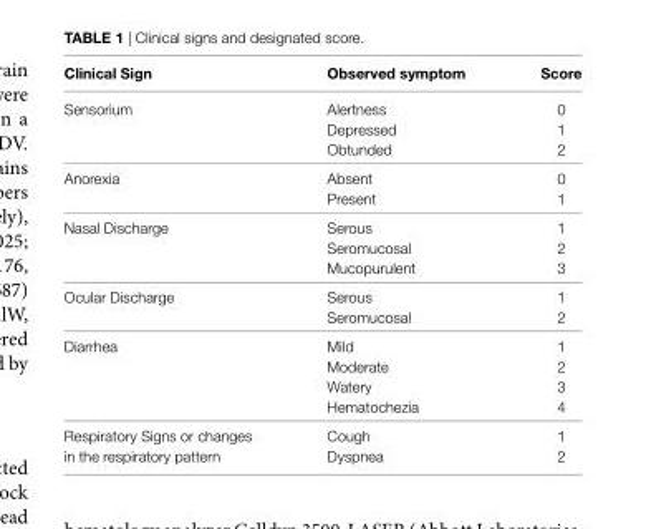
<table><thead><tr><td>clinical sign</td><td>Observed symptom</td><td>score</td></tr></thead><tbody><tr><td rowspan="3">Sensorium</td><td>Alertness</td><td>0</td></tr><tr><td>Depressed</td><td>1</td></tr><tr><td>Obtunded</td><td>2</td></tr><tr><td rowspan="2">Anorexia</td><td>Absent</td><td>0</td></tr><tr><td>Present</td><td>1</td></tr><tr><td rowspan="3">Nasal Discharge</td><td>Serous</td><td>1</td></tr><tr><td>Seromucosal</td><td>2</td></tr><tr><td>Mucopurulent</td><td>3</td></tr><tr><td rowspan="2">Ocular Discharge</td><td>Serous</td><td>1</td></tr><tr><td>Seromucosal</td><td>2</td></tr><tr><td rowspan="4">Diarrhea</td><td>Mild</td><td>1</td></tr><tr><td>Moderate</td><td>2</td></tr><tr><td>Watery</td><td>3</td></tr><tr><td>Hematochezia</td><td>4</td></tr><tr><td rowspan="2">Respiratory Signs or changes in the respiratory pattern</td><td>Cough</td><td>1</td></tr><tr><td>Dyspnea</td><td>2</td></tr></tbody></table>